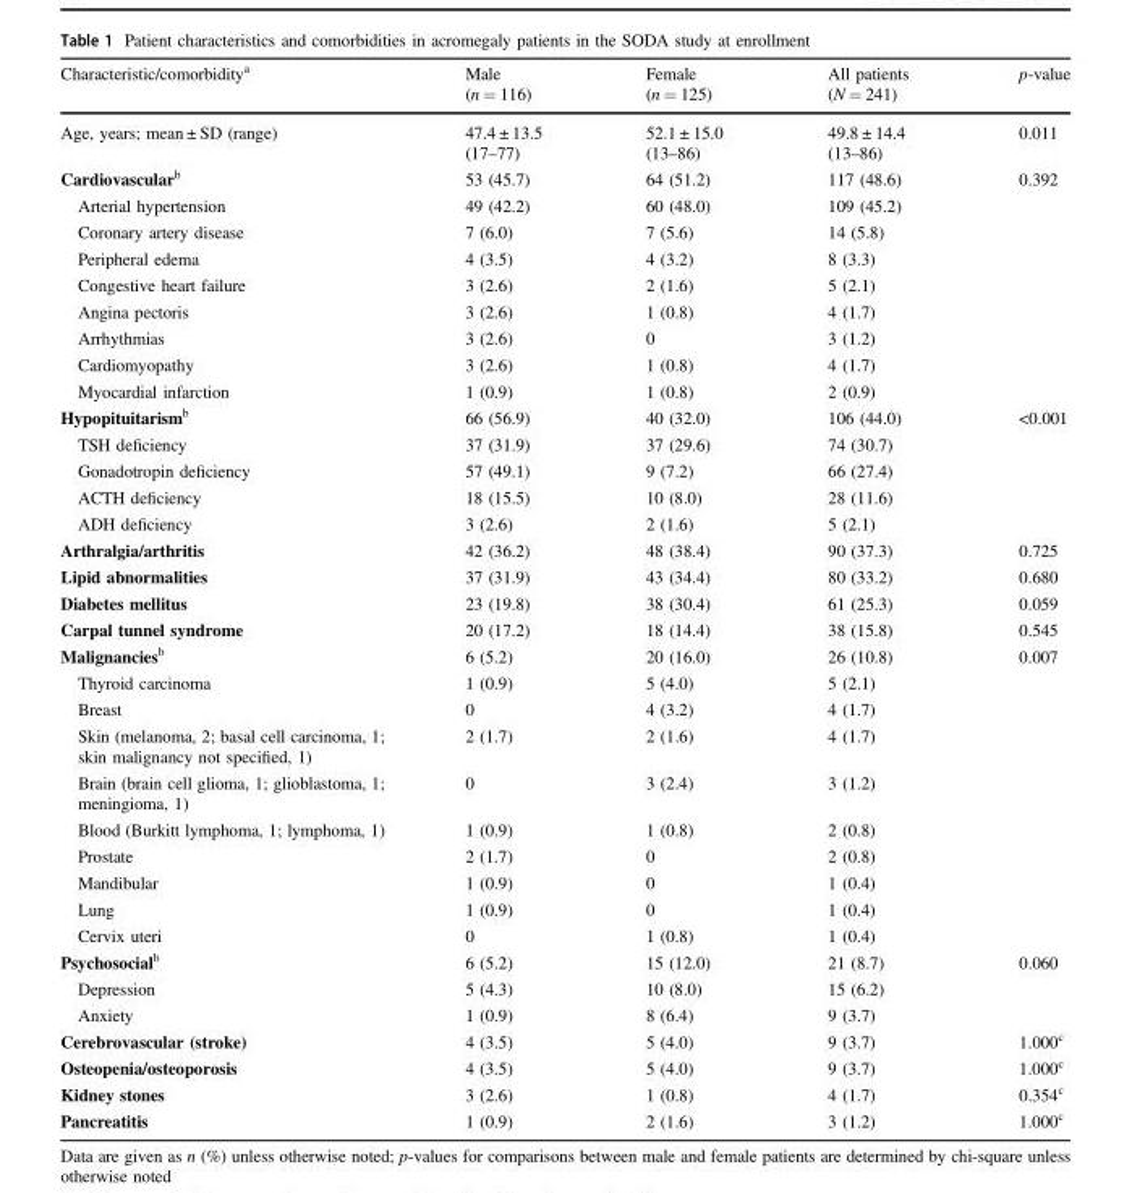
<table><thead><tr><td>Characteristic/comorbidity<sup>a</sup></td><td>Male (n = 116)</td><td>Female (n = 125)</td><td>All patients (N = 241)</td><td>p-value</td></tr></thead><tbody><tr><td>Age, years; mean ± SD (range)</td><td>47.4 ± 13.5 (17–77)</td><td>52.1 ± 15.0 (13–86)</td><td>49.8 ± 14.4 (13–86)</td><td>0.011</td></tr><tr><td>Cardiovascular<sup>b</sup></td><td>53 (45.7)</td><td>64 (51.2)</td><td>117 (48.6)</td><td>0.392</td></tr><tr><td>Arterial hypertension</td><td>49 (42.2)</td><td>60 (48.0)</td><td>109 (45.2)</td><td></td></tr><tr><td>Coronary artery disease</td><td>7 (6.0)</td><td>7 (5.6)</td><td>14 (5.8)</td><td></td></tr><tr><td>Peripheral edema</td><td>4 (3.5)</td><td>4 (3.2)</td><td>8 (3.3)</td><td></td></tr><tr><td>Congestive heart failure</td><td>3 (2.6)</td><td>2 (1.6)</td><td>5 (2.1)</td><td></td></tr><tr><td>Angina pectoris</td><td>3 (2.6)</td><td>1 (0.8)</td><td>4 (1.7)</td><td></td></tr><tr><td>Arrhythmias</td><td>3 (2.6)</td><td>0</td><td>3 (1.2)</td><td></td></tr><tr><td>Cardiomyopathy</td><td>3 (2.6)</td><td>1 (0.8)</td><td>4 (1.7)</td><td></td></tr><tr><td>Myocardial infarction</td><td>1 (0.9)</td><td>1 (0.8)</td><td>2 (0.9)</td><td></td></tr><tr><td>Hypopituitarism<sup>b</sup></td><td>66 (56.9)</td><td>40 (32.0)</td><td>106 (44.0)</td><td>&lt;0.001</td></tr><tr><td>TSH deficiency</td><td>37 (31.9)</td><td>37 (29.6)</td><td>74 (30.7)</td><td></td></tr><tr><td>Gonadotropin deficiency</td><td>57 (49.1)</td><td>9 (7.2)</td><td>66 (27.4)</td><td></td></tr><tr><td>ACTH deficiency</td><td>18 (15.5)</td><td>10 (8.0)</td><td>28 (11.6)</td><td></td></tr><tr><td>ADH deficiency</td><td>3 (2.6)</td><td>2 (1.6)</td><td>5 (2.1)</td><td></td></tr><tr><td>Arthralgia/arthritis</td><td>42 (36.2)</td><td>48 (38.4)</td><td>90 (37.3)</td><td>0.725</td></tr><tr><td>Lipid abnormalities</td><td>37 (31.9)</td><td>43 (34.4)</td><td>80 (33.2)</td><td>0.680</td></tr><tr><td>Diabetes mellitus</td><td>23 (19.8)</td><td>38 (30.4)</td><td>61 (25.3)</td><td>0.059</td></tr><tr><td>Carpal tunnel syndrome</td><td>20 (17.2)</td><td>18 (14.4)</td><td>38 (15.8)</td><td>0.545</td></tr><tr><td>Malignancies<sup>b</sup></td><td>6 (5.2)</td><td>20 (16.0)</td><td>26 (10.8)</td><td>0.007</td></tr><tr><td>Thyroid carcinoma</td><td>1 (0.9)</td><td>5 (4.0)</td><td>5 (2.1)</td><td></td></tr><tr><td>Breast</td><td>0</td><td>4 (3.2)</td><td>4 (1.7)</td><td></td></tr><tr><td>Skin (melanoma, 2; basal cell carcinoma, 1; skin malignancy not specified, 1)</td><td>2 (1.7)</td><td>2 (1.6)</td><td>4 (1.7)</td><td></td></tr><tr><td>Brain (brain cell glioma, 1; glioblastoma, 1; meningioma, 1)</td><td>0</td><td>3 (2.4)</td><td>3 (1.2)</td><td></td></tr><tr><td>Blood (Burkitt lymphoma, 1; lymphoma, 1)</td><td>1 (0.9)</td><td>1 (0.8)</td><td>2 (0.8)</td><td></td></tr><tr><td>Prostate</td><td>2 (1.7)</td><td>0</td><td>2 (0.8)</td><td></td></tr><tr><td>Mandibular</td><td>1 (0.9)</td><td>0</td><td>1 (0.4)</td><td></td></tr><tr><td>Lung</td><td>1 (0.9)</td><td>0</td><td>1 (0.4)</td><td></td></tr><tr><td>Cervix uteri</td><td>0</td><td>1 (0.8)</td><td>1 (0.4)</td><td></td></tr><tr><td>Psychosocial<sup>b</sup></td><td>6 (5.2)</td><td>15 (12.0)</td><td>21 (8.7)</td><td>0.060</td></tr><tr><td>Depression</td><td>5 (4.3)</td><td>10 (8.0)</td><td>15 (6.2)</td><td></td></tr><tr><td>Anxiety</td><td>1 (0.9)</td><td>8 (6.4)</td><td>9 (3.7)</td><td></td></tr><tr><td>Cerebrovascular (stroke)</td><td>4 (3.5)</td><td>5 (4.0)</td><td>9 (3.7)</td><td>1.000<sup>c</sup></td></tr><tr><td>Osteopenia/osteoporosis</td><td>4 (3.5)</td><td>5 (4.0)</td><td>9 (3.7)</td><td>1.000<sup>c</sup></td></tr><tr><td>Kidney stones</td><td>3 (2.6)</td><td>1 (0.8)</td><td>4 (1.7)</td><td>0.354<sup>c</sup></td></tr><tr><td>Pancreatitis</td><td>1 (0.9)</td><td>2 (1.6)</td><td>3 (1.2)</td><td>1.000<sup>c</sup></td></tr></tbody></table>